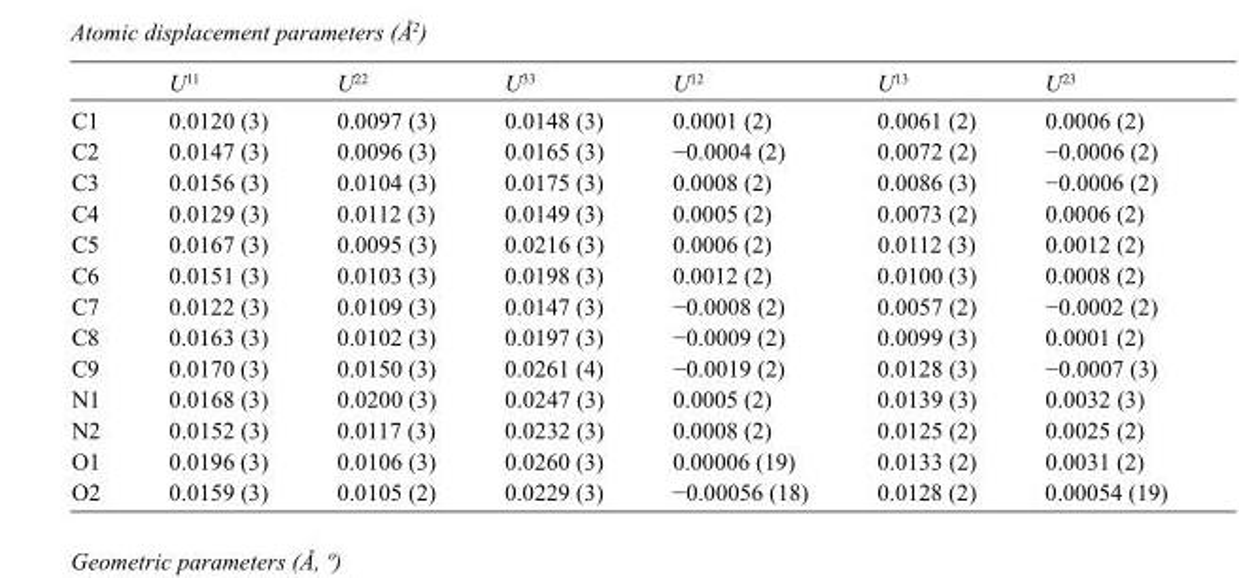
<table><thead><tr><td></td><td>U<sup>11</sup></td><td>U<sup>22</sup></td><td>U<sup>33</sup></td><td>U<sup>12</sup></td><td>U<sup>13</sup></td><td>U<sup>23</sup></td></tr></thead><tbody><tr><td>C1</td><td>0.0120 (3)</td><td>0.0097 (3)</td><td>0.0148 (3)</td><td>0.0001 (2)</td><td>0.0061 (2)</td><td>0.0006 (2)</td></tr><tr><td>C2</td><td>0.0147 (3)</td><td>0.0096 (3)</td><td>0.0165 (3)</td><td>−0.0004 (2)</td><td>0.0072 (2)</td><td>−0.0006 (2)</td></tr><tr><td>C3</td><td>0.0156 (3)</td><td>0.0104 (3)</td><td>0.0175 (3)</td><td>0.0008 (2)</td><td>0.0086 (3)</td><td>−0.0006 (2)</td></tr><tr><td>C4</td><td>0.0129 (3)</td><td>0.0112 (3)</td><td>0.0149 (3)</td><td>0.0005 (2)</td><td>0.0073 (2)</td><td>0.0006 (2)</td></tr><tr><td>C5</td><td>0.0167 (3)</td><td>0.0095 (3)</td><td>0.0216 (3)</td><td>0.0006 (2)</td><td>0.0112 (3)</td><td>0.0012 (2)</td></tr><tr><td>C6</td><td>0.0151 (3)</td><td>0.0103 (3)</td><td>0.0198 (3)</td><td>0.0012 (2)</td><td>0.0100 (3)</td><td>0.0008 (2)</td></tr><tr><td>C7</td><td>0.0122 (3)</td><td>0.0109 (3)</td><td>0.0147 (3)</td><td>−0.0008 (2)</td><td>0.0057 (2)</td><td>−0.0002 (2)</td></tr><tr><td>C8</td><td>0.0163 (3)</td><td>0.0102 (3)</td><td>0.0197 (3)</td><td>−0.0009 (2)</td><td>0.0099 (3)</td><td>0.0001 (2)</td></tr><tr><td>C9</td><td>0.0170 (3)</td><td>0.0150 (3)</td><td>0.0261 (4)</td><td>−0.0019 (2)</td><td>0.0128 (3)</td><td>−0.0007 (3)</td></tr><tr><td>N1</td><td>0.0168 (3)</td><td>0.0200 (3)</td><td>0.0247 (3)</td><td>0.0005 (2)</td><td>0.0139 (3)</td><td>0.0032 (3)</td></tr><tr><td>N2</td><td>0.0152 (3)</td><td>0.0117 (3)</td><td>0.0232 (3)</td><td>0.0008 (2)</td><td>0.0125 (2)</td><td>0.0025 (2)</td></tr><tr><td>O1</td><td>0.0196 (3)</td><td>0.0106 (3)</td><td>0.0260 (3)</td><td>0.00006 (19)</td><td>0.0133 (2)</td><td>0.0031 (2)</td></tr><tr><td>O2</td><td>0.0159 (3)</td><td>0.0105 (2)</td><td>0.0229 (3)</td><td>−0.00056 (18)</td><td>0.0128 (2)</td><td>0.00054 (19)</td></tr></tbody></table>